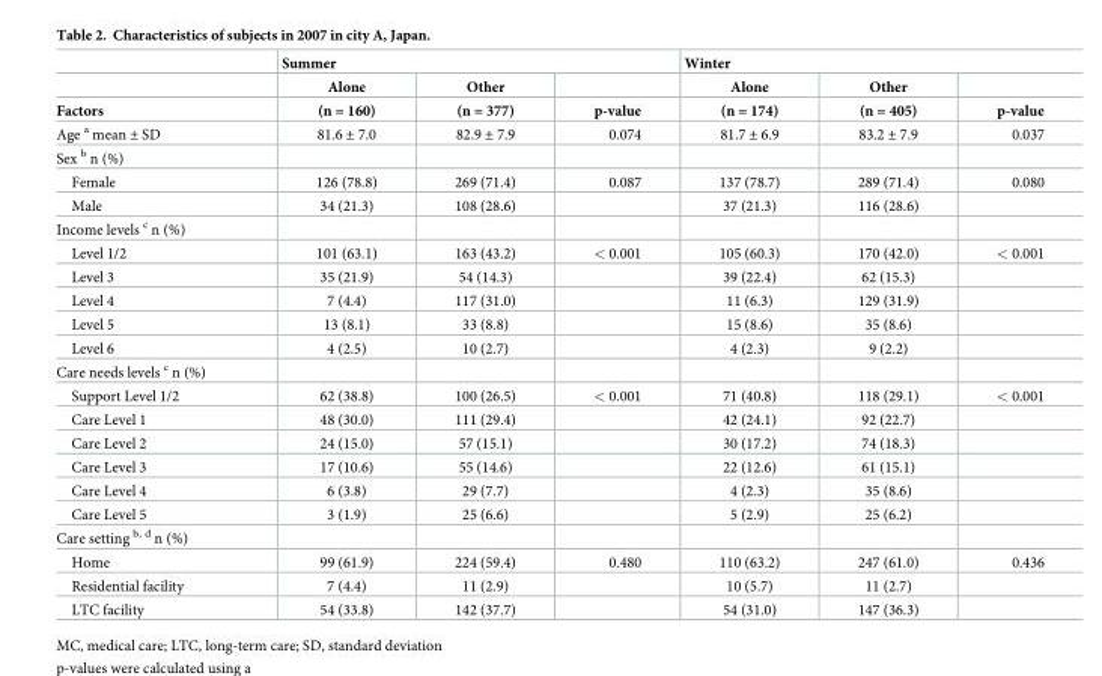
<table><thead><tr><td rowspan="3">Factors</td><td colspan="3">Summer</td><td colspan="3">Winter</td></tr><tr><td rowspan="2">Alone (n = 160)</td><td rowspan="2">Other (n = 377)</td><td rowspan="2">p-value</td><td rowspan="2">Alone (n = 174)</td><td rowspan="2">Other (n = 405)</td><td rowspan="2">p-value</td></tr><tr></tr></thead><tbody><tr><td>Age <sup>a</sup> mean ± SD</td><td>81.6 ± 7.0</td><td>82.9 ± 7.9</td><td>0.074</td><td>81.7 ± 6.9</td><td>83.2 ± 7.9</td><td>0.037</td></tr><tr><td colspan="7">Sex <sup>b</sup> n (%)</td></tr><tr><td>Female</td><td>126 (78.8)</td><td>269 (71.4)</td><td>0.087</td><td>137 (78.7)</td><td>289 (71.4)</td><td>0.080</td></tr><tr><td>Male</td><td>34 (21.3)</td><td>108 (28.6)</td><td></td><td>37 (21.3)</td><td>116 (28.6)</td><td></td></tr><tr><td colspan="7">Income levels <sup>c</sup> n (%)</td></tr><tr><td>Level 1/2</td><td>101 (63.1)</td><td>163 (43.2)</td><td>&lt; 0.001</td><td>105 (60.3)</td><td>170 (42.0)</td><td>&lt; 0.001</td></tr><tr><td>Level 3</td><td>35 (21.9)</td><td>54 (14.3)</td><td></td><td>39 (22.4)</td><td>62 (15.3)</td><td></td></tr><tr><td>Level 4</td><td>7 (4.4)</td><td>117 (31.0)</td><td></td><td>11 (6.3)</td><td>129 (31.9)</td><td></td></tr><tr><td>Level 5</td><td>13 (8.1)</td><td>33 (8.8)</td><td></td><td>15 (8.6)</td><td>35 (8.6)</td><td></td></tr><tr><td>Level 6</td><td>4 (2.5)</td><td>10 (2.7)</td><td></td><td>4 (2.3)</td><td>9 (2.2)</td><td></td></tr><tr><td colspan="7">Care needs levels <sup>c</sup> n (%)</td></tr><tr><td>Support Level 1/2</td><td>62 (38.8)</td><td>100 (26.5)</td><td>&lt; 0.001</td><td>71 (40.8)</td><td>118 (29.1)</td><td>&lt; 0.001</td></tr><tr><td>Care Level 1</td><td>48 (30.0)</td><td>111 (29.4)</td><td></td><td>42 (24.1)</td><td>92 (22.7)</td><td></td></tr><tr><td>Care Level 2</td><td>24 (15.0)</td><td>57 (15.1)</td><td></td><td>30 (17.2)</td><td>74 (18.3)</td><td></td></tr><tr><td>Care Level 3</td><td>17 (10.6)</td><td>55 (14.6)</td><td></td><td>22 (12.6)</td><td>61 (15.1)</td><td></td></tr><tr><td>Care Level 4</td><td>6 (3.8)</td><td>29 (7.7)</td><td></td><td>4 (2.3)</td><td>35 (8.6)</td><td></td></tr><tr><td>Care Level 5</td><td>3 (1.9)</td><td>25 (6.6)</td><td></td><td>5 (2.9)</td><td>25 (6.2)</td><td></td></tr><tr><td colspan="7">Care setting <sup>b, d</sup> n (%)</td></tr><tr><td>Home</td><td>99 (61.9)</td><td>224 (59.4)</td><td>0.480</td><td>110 (63.2)</td><td>247 (61.0)</td><td>0.436</td></tr><tr><td>Residential facility</td><td>7 (4.4)</td><td>11 (2.9)</td><td></td><td>10 (5.7)</td><td>11 (2.7)</td><td></td></tr><tr><td>LTC facility</td><td>54 (33.8)</td><td>142 (37.7)</td><td></td><td>54 (31.0)</td><td>147 (36.3)</td><td></td></tr></tbody></table>